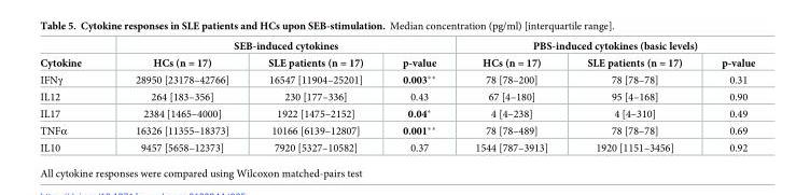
<table><thead><tr><td rowspan="2">Cytokine</td><td colspan="3">SEB-induced cytokines</td><td colspan="3">PBS-induced cytokines (basic levels)</td></tr><tr><td>HCs (n = 17)</td><td>SLE patients (n = 17)</td><td>p-value</td><td>HCs (n = 17)</td><td>SLE patients (n = 17)</td><td>p-value</td></tr></thead><tbody><tr><td>IFNγ</td><td>28950 [23178–42766]</td><td>16547 [11904–25201]</td><td>0.003**</td><td>78 [78–200]</td><td>78 [78–78]</td><td>0.31</td></tr><tr><td>IL12</td><td>264 [183–356]</td><td>230 [177–336]</td><td>0.43</td><td>67 [4–180]</td><td>95 [4–168]</td><td>0.90</td></tr><tr><td>IL17</td><td>2384 [1465–4000]</td><td>1922 [1475–2152]</td><td>0.04*</td><td>4 [4–238]</td><td>4 [4–310]</td><td>0.49</td></tr><tr><td>TNFα</td><td>16326 [11355–18373]</td><td>10166 [6139–12807]</td><td>0.001**</td><td>78 [78–489]</td><td>78 [78–78]</td><td>0.69</td></tr><tr><td>IL10</td><td>9457 [5658–12373]</td><td>7920 [5327–10582]</td><td>0.37</td><td>1544 [787–3913]</td><td>1920 [1151–3456]</td><td>0.92</td></tr></tbody></table>